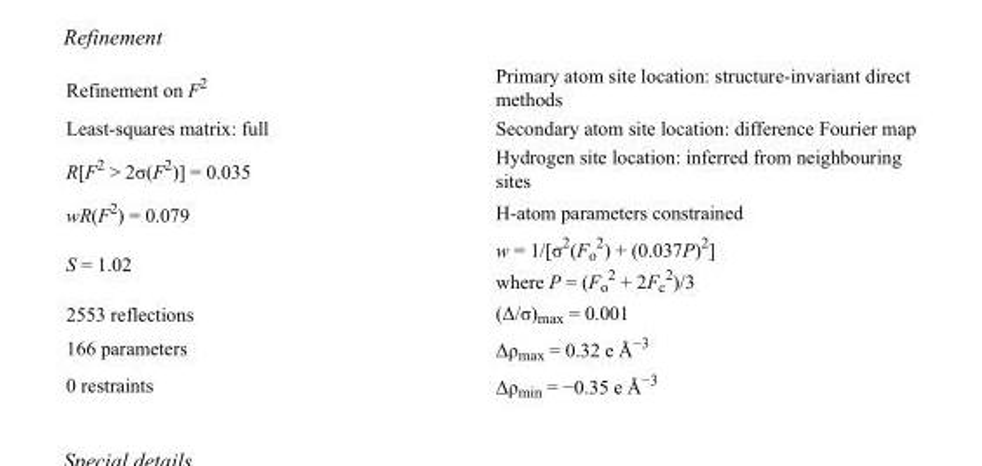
<table><tbody><tr><td>Refinement on F<sup>2</sup></td><td>Primary atom site location: structure-invariant direct methods</td></tr><tr><td>Least-squares matrix: full</td><td>Secondary atom site location: difference Fourier map</td></tr><tr><td>R[F<sup>2</sup> &gt; 2σ(F<sup>2</sup>)] = 0.035</td><td>Hydrogen site location: inferred from neighbouring sites</td></tr><tr><td>wR(F<sup>2</sup>) = 0.079</td><td>H-atom parameters constrained</td></tr><tr><td>S = 1.02</td><td>w = 1/[σ<sup>2</sup>(F<sub>o</sub> <sup>2</sup>) + (0.037P)<sup>2</sup>] where P = (F<sub>o</sub> <sup>2</sup> + 2F<sub>c</sub> <sup>2</sup>)/3</td></tr><tr><td>2553 reflections</td><td>(Δ/σ)<sub>max</sub> = 0.001</td></tr><tr><td>166 parameters</td><td>Δρ<sub>max</sub> = 0.32 e Å<sup>−3</sup></td></tr><tr><td>0 restraints</td><td>Δρ<sub>min</sub> = −0.35 e Å<sup>−3</sup></td></tr></tbody></table>